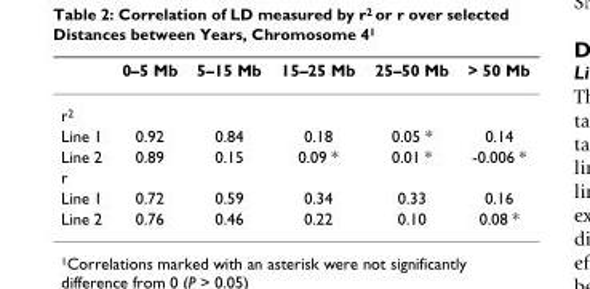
<table><thead><tr><td></td><td>0–5 Mb</td><td>5–15 Mb</td><td>15–25 Mb</td><td>25–50 Mb</td><td>&gt; 50 Mb</td></tr></thead><tbody><tr><td colspan="6">r<sup>2</sup></td></tr><tr><td>Line 1</td><td>0.92</td><td>0.84</td><td>0.18</td><td>0.05 *</td><td>0.14</td></tr><tr><td>Line 2</td><td>0.89</td><td>0.15</td><td>0.09 *</td><td>0.01 *</td><td>-0.006 *</td></tr><tr><td colspan="6">r</td></tr><tr><td>Line 1</td><td>0.72</td><td>0.59</td><td>0.34</td><td>0.33</td><td>0.16</td></tr><tr><td>Line 2</td><td>0.76</td><td>0.46</td><td>0.22</td><td>0.10</td><td>0.08 *</td></tr></tbody></table>